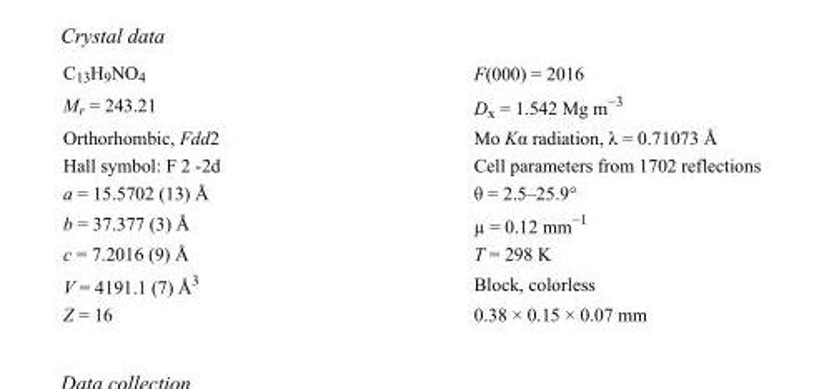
<table><tbody><tr><td>C<sub>13</sub>H<sub>9</sub>NO<sub>4</sub></td><td>F(000) = 2016</td></tr><tr><td>M<sub>r</sub> = 243.21</td><td>D<sub>x</sub> = 1.542 Mg m<sup>−3</sup></td></tr><tr><td>Orthorhombic, Fdd2</td><td>Mo Kα radiation, λ = 0.71073 Å</td></tr><tr><td>Hall symbol: F 2 -2d</td><td>Cell parameters from 1702 reflections</td></tr><tr><td>a = 15.5702 (13) Å</td><td>θ = 2.5–25.9°</td></tr><tr><td>b = 37.377 (3) Å</td><td>µ = 0.12 mm<sup>−1</sup></td></tr><tr><td>c = 7.2016 (9) Å</td><td>T = 298 K</td></tr><tr><td>V = 4191.1 (7) Å<sup>3</sup></td><td>Block, colorless</td></tr><tr><td>Z = 16</td><td>0.38 × 0.15 × 0.07 mm</td></tr></tbody></table>